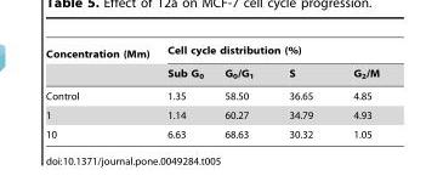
<table><thead><tr><td rowspan="2">Concentration (Mm)</td><td colspan="4">Cell cycle distribution (%)</td></tr><tr><td>Sub G<sub>0</sub></td><td>G<sub>0</sub>/G<sub>1</sub></td><td>S</td><td>G<sub>2</sub>/M</td></tr></thead><tbody><tr><td>Control</td><td>1.35</td><td>58.50</td><td>36.65</td><td>4.85</td></tr><tr><td>1</td><td>1.14</td><td>60.27</td><td>34.79</td><td>4.93</td></tr><tr><td>10</td><td>6.63</td><td>68.63</td><td>30.32</td><td>1.05</td></tr></tbody></table>